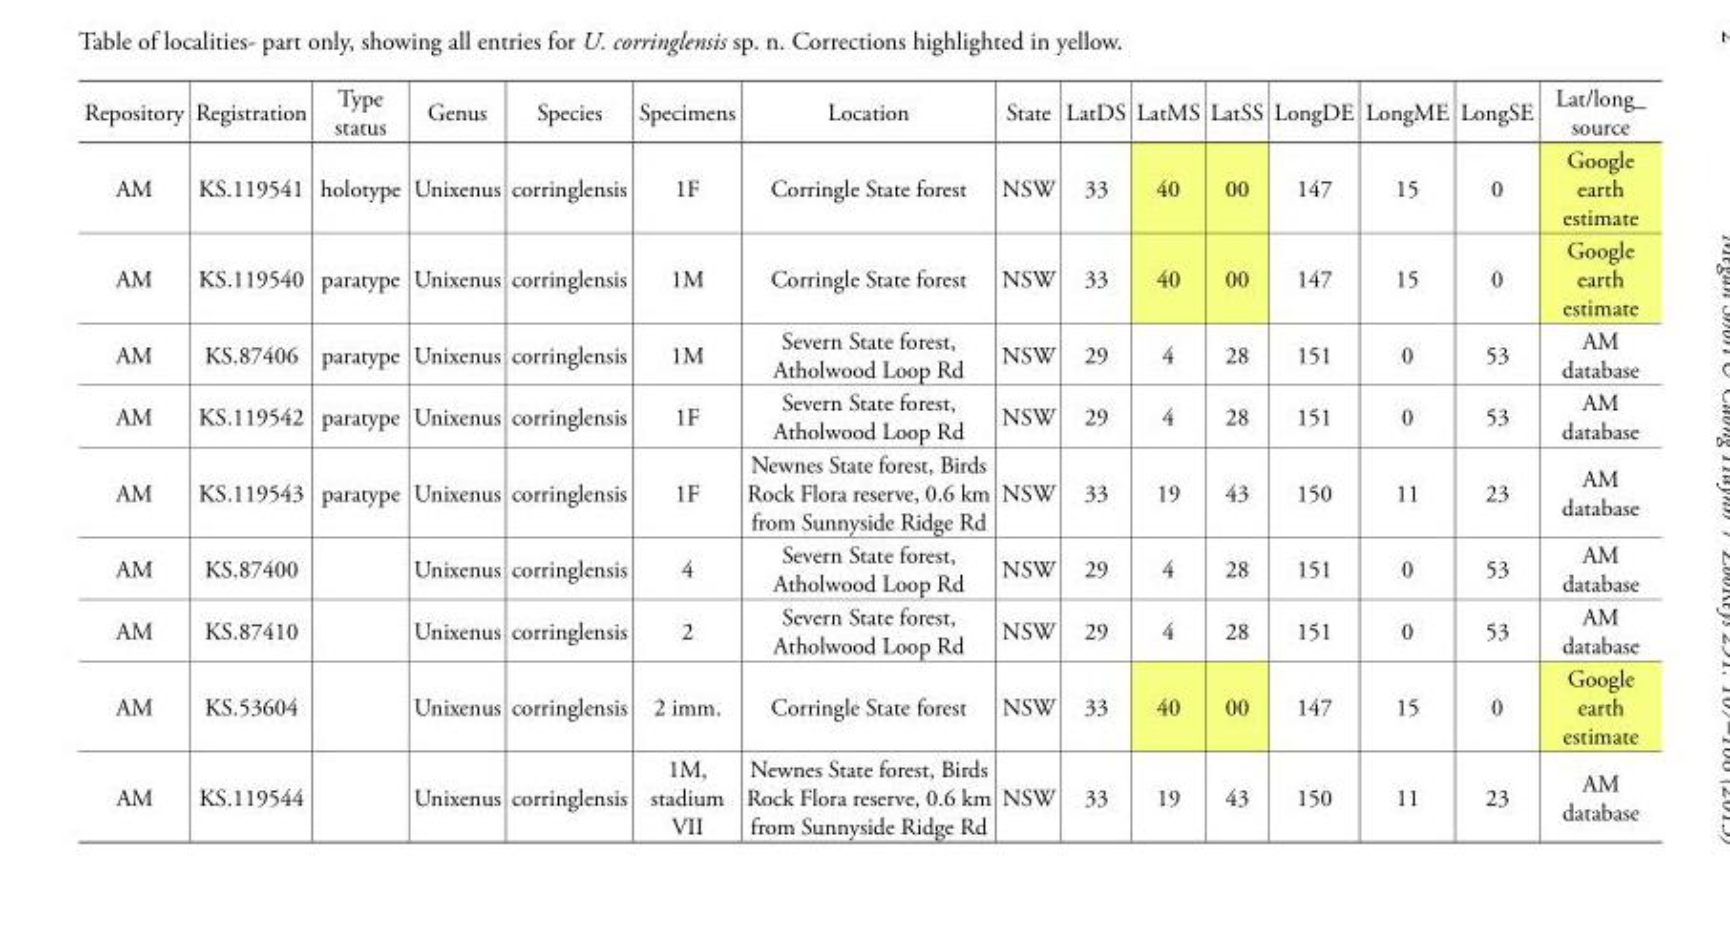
<table><tbody><tr><td>Repository</td><td>Registration</td><td>Type status</td><td>Genus</td><td>Species</td><td>Specimens</td><td>Location</td><td>State</td><td>LatDS</td><td>LatMS</td><td>LatSS</td><td>LongDE</td><td>LongME</td><td>LongSE</td><td>Lat/long_ source</td></tr><tr><td>AM</td><td>KS.119541</td><td>holotype</td><td>Unixenus</td><td>corringlensis</td><td>1F</td><td>Corringle State forest</td><td>NSW</td><td>33</td><td>40</td><td>00</td><td>147</td><td>15</td><td>0</td><td>Google earth estimate</td></tr><tr><td>AM</td><td>KS.119540</td><td>paratype</td><td>Unixenus</td><td>corringlensis</td><td>1M</td><td>Corringle State forest</td><td>NSW</td><td>33</td><td>40</td><td>00</td><td>147</td><td>15</td><td>0</td><td>Google earth estimate</td></tr><tr><td>AM</td><td>KS.87406</td><td>paratype</td><td>Unixenus</td><td>corringlensis</td><td>1M</td><td>Severn State forest, Atholwood Loop Rd</td><td>NSW</td><td>29</td><td>4</td><td>28</td><td>151</td><td>0</td><td>53</td><td>AM database</td></tr><tr><td>AM</td><td>KS.119542</td><td>paratype</td><td>Unixenus</td><td>corringlensis</td><td>1F</td><td>Severn State forest, Atholwood Loop Rd</td><td>NSW</td><td>29</td><td>4</td><td>28</td><td>151</td><td>0</td><td>53</td><td>AM database</td></tr><tr><td>AM</td><td>KS.119543</td><td>paratype</td><td>Unixenus</td><td>corringlensis</td><td>1F</td><td>Newnes State forest, Birds Rock Flora reserve, 0.6 km from Sunnyside Ridge Rd</td><td>NSW</td><td>33</td><td>19</td><td>43</td><td>150</td><td>11</td><td>23</td><td>AM database</td></tr><tr><td>AM</td><td>KS.87400</td><td></td><td>Unixenus</td><td>corringlensis</td><td>4</td><td>Severn State forest, Atholwood Loop Rd</td><td>NSW</td><td>29</td><td>4</td><td>28</td><td>151</td><td>0</td><td>53</td><td>AM database</td></tr><tr><td>AM</td><td>KS.87410</td><td></td><td>Unixenus</td><td>corringlensis</td><td>2</td><td>Severn State forest, Atholwood Loop Rd</td><td>NSW</td><td>29</td><td>4</td><td>28</td><td>151</td><td>0</td><td>53</td><td>AM database</td></tr><tr><td>AM</td><td>KS.53604</td><td></td><td>Unixenus</td><td>corringlensis</td><td>2 imm.</td><td>Corringle State forest</td><td>NSW</td><td>33</td><td>40</td><td>00</td><td>147</td><td>15</td><td>0</td><td>Google earth estimate</td></tr><tr><td>AM</td><td>KS.119544</td><td></td><td>Unixenus</td><td>corringlensis</td><td>1M, stadium VII</td><td>Newnes State forest, Birds Rock Flora reserve, 0.6 km from Sunnyside Ridge Rd</td><td>NSW</td><td>33</td><td>19</td><td>43</td><td>150</td><td>11</td><td>23</td><td>AM database</td></tr></tbody></table>